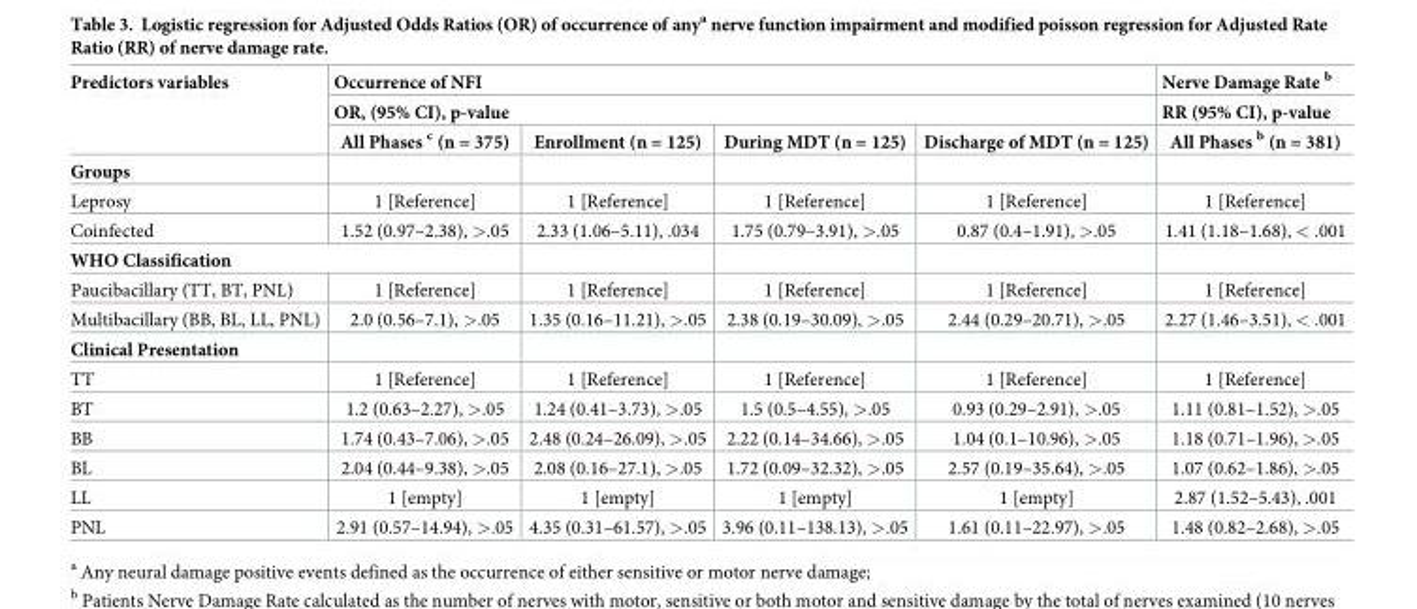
<table><thead><tr><td rowspan="3">Predictors variables</td><td rowspan="2" colspan="4">Occurrence of NFI OR, (95% CI), p-value</td><td rowspan="3">Nerve Damage Rate <sup>b</sup> RR (95% CI), p-value All Phases <sup>b</sup> (n = 381)</td></tr><tr></tr><tr><td>All Phases <sup>c</sup> (n = 375)</td><td>Enrollment (n = 125)</td><td>During MDT (n = 125)</td><td>Discharge of MDT (n = 125)</td></tr></thead><tbody><tr><td colspan="6">Groups</td></tr><tr><td>Leprosy</td><td>1 [Reference]</td><td>1 [Reference]</td><td>1 [Reference]</td><td>1 [Reference]</td><td>1 [Reference]</td></tr><tr><td>Coinfected</td><td>1.52 (0.97–2.38), &gt;.05</td><td>2.33 (1.06–5.11), .034</td><td>1.75 (0.79–3.91), &gt;.05</td><td>0.87 (0.4–1.91), &gt;.05</td><td>1.41 (1.18–1.68), &lt; .001</td></tr><tr><td colspan="6">WHO Classification</td></tr><tr><td>Paucibacillary (TT, BT, PNL)</td><td>1 [Reference]</td><td>1 [Reference]</td><td>1 [Reference]</td><td>1 [Reference]</td><td>1 [Reference]</td></tr><tr><td>Multibacillary (BB, BL, LL, PNL)</td><td>2.0 (0.56–7.1), &gt;.05</td><td>1.35 (0.16–11.21), &gt;.05</td><td>2.38 (0.19–30.09), &gt;.05</td><td>2.44 (0.29–20.71), &gt;.05</td><td>2.27 (1.46–3.51), &lt; .001</td></tr><tr><td colspan="6">Clinical Presentation</td></tr><tr><td>TT</td><td>1 [Reference]</td><td>1 [Reference]</td><td>1 [Reference]</td><td>1 [Reference]</td><td>1 [Reference]</td></tr><tr><td>BT</td><td>1.2 (0.63–2.27), &gt;.05</td><td>1.24 (0.41–3.73), &gt;.05</td><td>1.5 (0.5–4.55), &gt;.05</td><td>0.93 (0.29–2.91), &gt;.05</td><td>1.11 (0.81–1.52), &gt;.05</td></tr><tr><td>BB</td><td>1.74 (0.43–7.06), &gt;.05</td><td>2.48 (0.24–26.09), &gt;.05</td><td>2.22 (0.14–34.66), &gt;.05</td><td>1.04 (0.1–10.96), &gt;.05</td><td>1.18 (0.71–1.96), &gt;.05</td></tr><tr><td>BL</td><td>2.04 (0.44–9.38), &gt;.05</td><td>2.08 (0.16–27.1), &gt;.05</td><td>1.72 (0.09–32.32), &gt;.05</td><td>2.57 (0.19–35.64), &gt;.05</td><td>1.07 (0.62–1.86), &gt;.05</td></tr><tr><td>LL</td><td>1 [empty]</td><td>1 [empty]</td><td>1 [empty]</td><td>1 [empty]</td><td>2.87 (1.52–5.43), .001</td></tr><tr><td>PNL</td><td>2.91 (0.57–14.94), &gt;.05</td><td>4.35 (0.31–61.57), &gt;.05</td><td>3.96 (0.11–138.13), &gt;.05</td><td>1.61 (0.11–22.97), &gt;.05</td><td>1.48 (0.82–2.68), &gt;.05</td></tr></tbody></table>